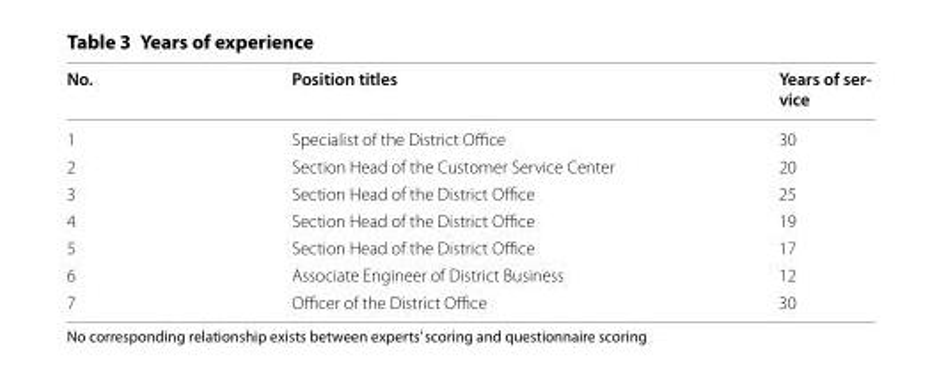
<table><thead><tr><td>No.</td><td>Position titles</td><td>Years of ser- vice</td></tr></thead><tbody><tr><td>1</td><td>Specialist of the District Office</td><td>30</td></tr><tr><td>2</td><td>Section Head of the Customer Service Center</td><td>20</td></tr><tr><td>3</td><td>Section Head of the District Office</td><td>25</td></tr><tr><td>4</td><td>Section Head of the District Office</td><td>19</td></tr><tr><td>5</td><td>Section Head of the District Office</td><td>17</td></tr><tr><td>6</td><td>Associate Engineer of District Business</td><td>12</td></tr><tr><td>7</td><td>Officer of the District Office</td><td>30</td></tr></tbody></table>